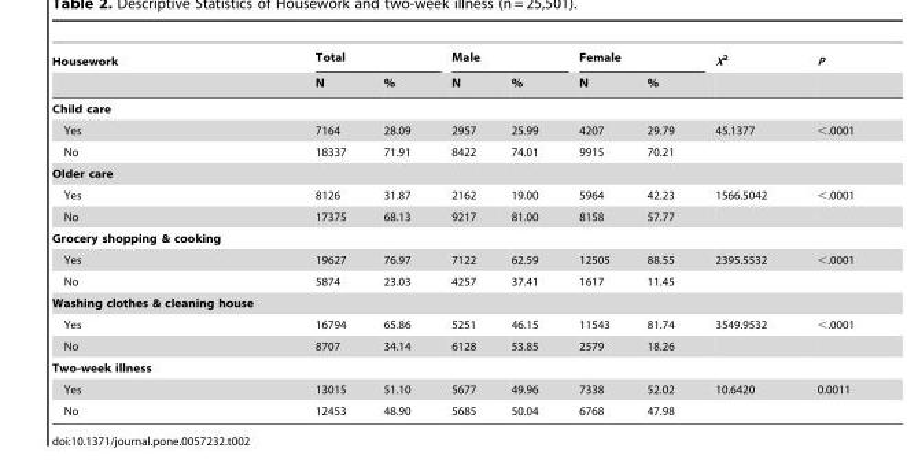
<table><thead><tr><td rowspan="2">Housework</td><td colspan="2">Total</td><td colspan="2">Male</td><td colspan="2">Female</td><td rowspan="2">X<sup>2</sup></td><td rowspan="2">P</td></tr><tr><td>N</td><td>%</td><td>N</td><td>%</td><td>N</td><td>%</td></tr></thead><tbody><tr><td colspan="9">Child care</td></tr><tr><td>Yes</td><td>7164</td><td>28.09</td><td>2957</td><td>25.99</td><td>4207</td><td>29.79</td><td>45.1377</td><td>&lt;.0001</td></tr><tr><td>No</td><td>18337</td><td>71.91</td><td>8422</td><td>74.01</td><td>9915</td><td>70.21</td><td></td><td></td></tr><tr><td colspan="9">Older care</td></tr><tr><td>Yes</td><td>8126</td><td>31.87</td><td>2162</td><td>19.00</td><td>5964</td><td>42.23</td><td>1566.5042</td><td>&lt;.0001</td></tr><tr><td>No</td><td>17375</td><td>68.13</td><td>9217</td><td>81.00</td><td>8158</td><td>57.77</td><td></td><td></td></tr><tr><td colspan="9">Grocery shopping &amp; cooking</td></tr><tr><td>Yes</td><td>19627</td><td>76.97</td><td>7122</td><td>62.59</td><td>12505</td><td>88.55</td><td>2395.5532</td><td>&lt;.0001</td></tr><tr><td>No</td><td>5874</td><td>23.03</td><td>4257</td><td>37.41</td><td>1617</td><td>11.45</td><td></td><td></td></tr><tr><td colspan="9">Washing clothes &amp; cleaning house</td></tr><tr><td>Yes</td><td>16794</td><td>65.86</td><td>5251</td><td>46.15</td><td>11543</td><td>81.74</td><td>3549.9532</td><td>&lt;.0001</td></tr><tr><td>No</td><td>8707</td><td>34.14</td><td>6128</td><td>53.85</td><td>2579</td><td>18.26</td><td></td><td></td></tr><tr><td colspan="9">Two-week illness</td></tr><tr><td>Yes</td><td>13015</td><td>51.10</td><td>5677</td><td>49.96</td><td>7338</td><td>52.02</td><td>10.6420</td><td>0.0011</td></tr><tr><td>No</td><td>12453</td><td>48.90</td><td>5685</td><td>50.04</td><td>6768</td><td>47.98</td><td></td><td></td></tr></tbody></table>